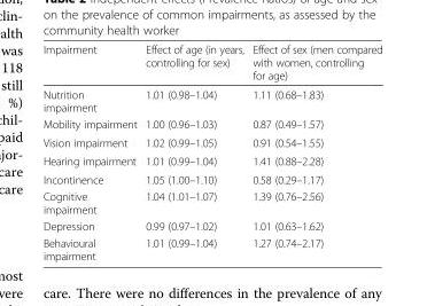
<table><thead><tr><td>Impairment</td><td>Effect of age (in years, controlling for sex)</td><td>Effect of sex (men compared with women, controlling for age)</td></tr></thead><tbody><tr><td>Nutrition impairment</td><td>1.01 (0.98–1.04)</td><td>1.11 (0.68–1.83)</td></tr><tr><td>Mobility impairment</td><td>1.00 (0.96–1.03)</td><td>0.87 (0.49–1.57)</td></tr><tr><td>Vision impairment</td><td>1.02 (0.99–1.05)</td><td>0.91 (0.54–1.55)</td></tr><tr><td>Hearing impairment</td><td>1.01 (0.99–1.04)</td><td>1.41 (0.88–2.28)</td></tr><tr><td>Incontinence</td><td>1.05 (1.00–1.10)</td><td>0.58 (0.29–1.17)</td></tr><tr><td>Cognitive impairment</td><td>1.04 (1.01–1.07)</td><td>1.39 (0.76–2.56)</td></tr><tr><td>Depression</td><td>0.99 (0.97–1.02)</td><td>1.01 (0.63–1.62)</td></tr><tr><td>Behavioural impairment</td><td>1.01 (0.99–1.04)</td><td>1.27 (0.74–2.17)</td></tr></tbody></table>